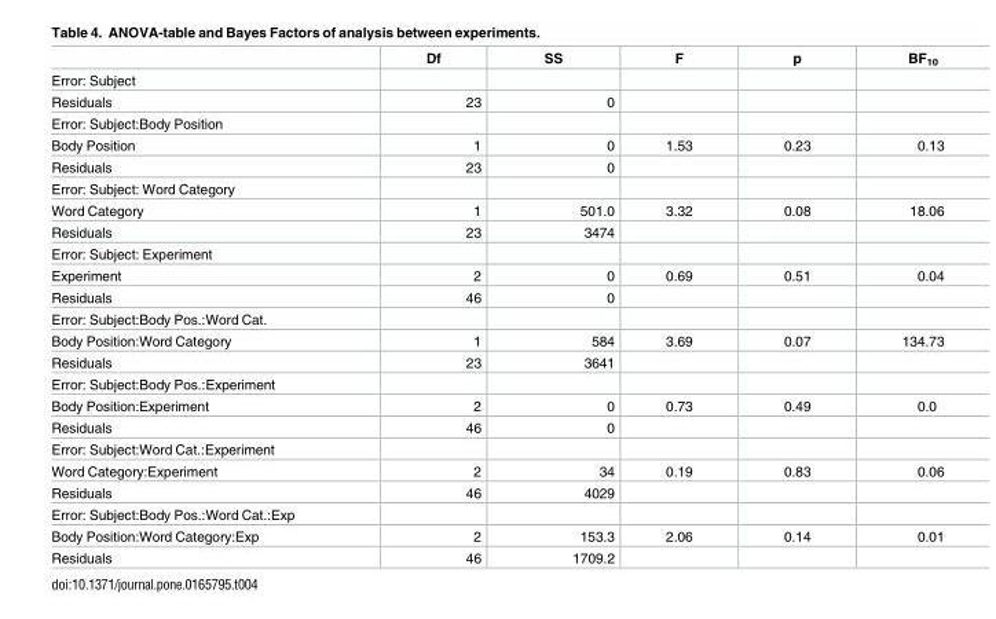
<table><thead><tr><td></td><td>Df</td><td>SS</td><td>F</td><td>p</td><td>BF<sub>10</sub></td></tr></thead><tbody><tr><td colspan="6">Error: Subject</td></tr><tr><td>Residuals</td><td>23</td><td>0</td><td></td><td></td><td></td></tr><tr><td colspan="6">Error: Subject:Body Position</td></tr><tr><td>Body Position</td><td>1</td><td>0</td><td>1.53</td><td>0.23</td><td>0.13</td></tr><tr><td>Residuals</td><td>23</td><td>0</td><td></td><td></td><td></td></tr><tr><td colspan="6">Error: Subject: Word Category</td></tr><tr><td>Word Category</td><td>1</td><td>501.0</td><td>3.32</td><td>0.08</td><td>18.06</td></tr><tr><td>Residuals</td><td>23</td><td>3474</td><td></td><td></td><td></td></tr><tr><td colspan="6">Error: Subject: Experiment</td></tr><tr><td>Experiment</td><td>2</td><td>0</td><td>0.69</td><td>0.51</td><td>0.04</td></tr><tr><td>Residuals</td><td>46</td><td>0</td><td></td><td></td><td></td></tr><tr><td colspan="6">Error: Subject:Body Pos.:Word Cat.</td></tr><tr><td>Body Position:Word Category</td><td>1</td><td>584</td><td>3.69</td><td>0.07</td><td>134.73</td></tr><tr><td>Residuals</td><td>23</td><td>3641</td><td></td><td></td><td></td></tr><tr><td colspan="6">Error: Subject:Body Pos.:Experiment</td></tr><tr><td>Body Position:Experiment</td><td>2</td><td>0</td><td>0.73</td><td>0.49</td><td>0.0</td></tr><tr><td>Residuals</td><td>46</td><td>0</td><td></td><td></td><td></td></tr><tr><td colspan="6">Error: Subject:Word Cat.:Experiment</td></tr><tr><td>Word Category:Experiment</td><td>2</td><td>34</td><td>0.19</td><td>0.83</td><td>0.06</td></tr><tr><td>Residuals</td><td>46</td><td>4029</td><td></td><td></td><td></td></tr><tr><td colspan="6">Error: Subject:Body Pos.:Word Cat.:Exp</td></tr><tr><td>Body Position:Word Category:Exp</td><td>2</td><td>153.3</td><td>2.06</td><td>0.14</td><td>0.01</td></tr><tr><td>Residuals</td><td>46</td><td>1709.2</td><td></td><td></td><td></td></tr></tbody></table>